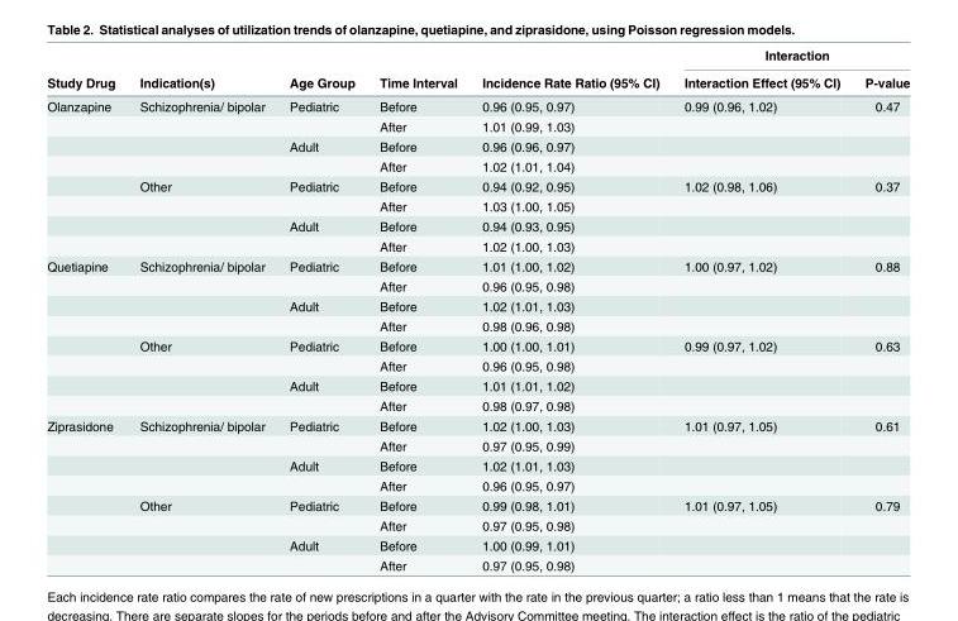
<table><thead><tr><td rowspan="2">Study Drug</td><td rowspan="2">Indication(s)</td><td rowspan="2">Age Group</td><td rowspan="2">Time Interval</td><td rowspan="2">Incidence Rate Ratio (95% CI)</td><td colspan="2">Interaction</td></tr><tr><td>Interaction Effect (95% CI)</td><td>P-value</td></tr></thead><tbody><tr><td rowspan="8">Olanzapine</td><td>Schizophrenia/ bipolar</td><td>Pediatric</td><td>Before</td><td>0.96 (0.95, 0.97)</td><td>0.99 (0.96, 1.02)</td><td>0.47</td></tr><tr><td></td><td></td><td>After</td><td>1.01 (0.99, 1.03)</td><td></td><td></td></tr><tr><td></td><td>Adult</td><td>Before</td><td>0.96 (0.96, 0.97)</td><td></td><td></td></tr><tr><td></td><td></td><td>After</td><td>1.02 (1.01, 1.04)</td><td></td><td></td></tr><tr><td>Other</td><td>Pediatric</td><td>Before</td><td>0.94 (0.92, 0.95)</td><td>1.02 (0.98, 1.06)</td><td>0.37</td></tr><tr><td></td><td></td><td>After</td><td>1.03 (1.00, 1.05)</td><td></td><td></td></tr><tr><td></td><td>Adult</td><td>Before</td><td>0.94 (0.93, 0.95)</td><td></td><td></td></tr><tr><td></td><td></td><td>After</td><td>1.02 (1.00, 1.03)</td><td></td><td></td></tr><tr><td rowspan="8">Quetiapine</td><td>Schizophrenia/ bipolar</td><td>Pediatric</td><td>Before</td><td>1.01 (1.00, 1.02)</td><td>1.00 (0.97, 1.02)</td><td>0.88</td></tr><tr><td></td><td></td><td>After</td><td>0.96 (0.95, 0.98)</td><td></td><td></td></tr><tr><td></td><td>Adult</td><td>Before</td><td>1.02 (1.01, 1.03)</td><td></td><td></td></tr><tr><td></td><td></td><td>After</td><td>0.98 (0.96, 0.98)</td><td></td><td></td></tr><tr><td>Other</td><td>Pediatric</td><td>Before</td><td>1.00 (1.00, 1.01)</td><td>0.99 (0.97, 1.02)</td><td>0.63</td></tr><tr><td></td><td></td><td>After</td><td>0.96 (0.95, 0.98)</td><td></td><td></td></tr><tr><td></td><td>Adult</td><td>Before</td><td>1.01 (1.01, 1.02)</td><td></td><td></td></tr><tr><td></td><td></td><td>After</td><td>0.98 (0.97, 0.98)</td><td></td><td></td></tr><tr><td rowspan="8">Ziprasidone</td><td>Schizophrenia/ bipolar</td><td>Pediatric</td><td>Before</td><td>1.02 (1.00, 1.03)</td><td>1.01 (0.97, 1.05)</td><td>0.61</td></tr><tr><td></td><td></td><td>After</td><td>0.97 (0.95, 0.99)</td><td></td><td></td></tr><tr><td></td><td>Adult</td><td>Before</td><td>1.02 (1.01, 1.03)</td><td></td><td></td></tr><tr><td></td><td></td><td>After</td><td>0.96 (0.95, 0.97)</td><td></td><td></td></tr><tr><td>Other</td><td>Pediatric</td><td>Before</td><td>0.99 (0.98, 1.01)</td><td>1.01 (0.97, 1.05)</td><td>0.79</td></tr><tr><td></td><td></td><td>After</td><td>0.97 (0.95, 0.98)</td><td></td><td></td></tr><tr><td></td><td>Adult</td><td>Before</td><td>1.00 (0.99, 1.01)</td><td></td><td></td></tr><tr><td></td><td></td><td>After</td><td>0.97 (0.95, 0.98)</td><td></td><td></td></tr></tbody></table>